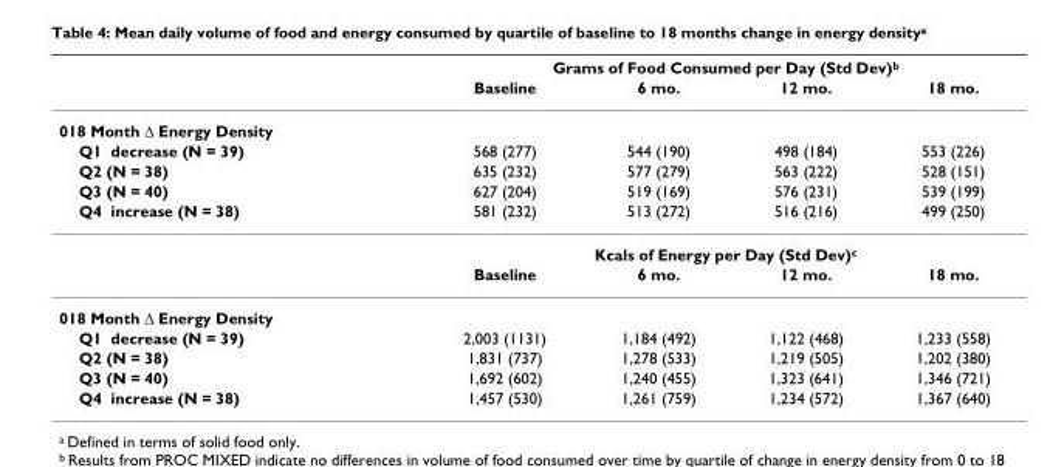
<table><thead><tr><td rowspan="2"></td><td colspan="4">Grams of Food Consumed per Day (Std Dev)<sup>b</sup></td></tr><tr><td>Baseline</td><td>6 mo.</td><td>12 mo.</td><td>18 mo.</td></tr></thead><tbody><tr><td colspan="5">018 Month Δ Energy Density</td></tr><tr><td>Q1 decrease (N = 39)</td><td>568 (277)</td><td>544 (190)</td><td>498 (184)</td><td>553 (226)</td></tr><tr><td>Q2 (N = 38)</td><td>635 (232)</td><td>577 (279)</td><td>563 (222)</td><td>528 (151)</td></tr><tr><td>Q3 (N = 40)</td><td>627 (204)</td><td>519 (169)</td><td>576 (231)</td><td>539 (199)</td></tr><tr><td rowspan="3">Q4 increase (N = 38)</td><td>581 (232)</td><td>513 (272)</td><td>516 (216)</td><td>499 (250)</td></tr><tr><td colspan="4">Kcals of Energy per Day (Std Dev)<sup>c</sup></td></tr><tr><td>Baseline</td><td>6 mo.</td><td>12 mo.</td><td>18 mo.</td></tr><tr><td colspan="5">018 Month Δ Energy Density</td></tr><tr><td>Q1 decrease (N = 39)</td><td>2,003 (1131)</td><td>1,184 (492)</td><td>1,122 (468)</td><td>1,233 (558)</td></tr><tr><td>Q2 (N = 38)</td><td>1,831 (737)</td><td>1,278 (533)</td><td>1,219 (505)</td><td>1,202 (380)</td></tr><tr><td>Q3 (N = 40)</td><td>1,692 (602)</td><td>1,240 (455)</td><td>1,323 (641)</td><td>1,346 (721)</td></tr><tr><td>Q4 increase (N = 38)</td><td>1,457 (530)</td><td>1,261 (759)</td><td>1,234 (572)</td><td>1,367 (640)</td></tr></tbody></table>